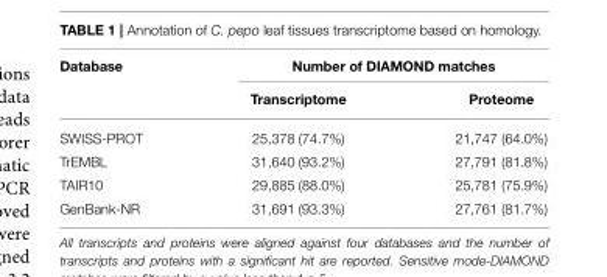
<table><thead><tr><td rowspan="2">Database</td><td colspan="2">Number of DIAMOND matches</td></tr><tr><td>Transcriptome</td><td>Proteome</td></tr></thead><tbody><tr><td>SWISS-PROT</td><td>25,378 (74.7%)</td><td>21,747 (64.0%)</td></tr><tr><td>TrEMBL</td><td>31,640 (93.2%)</td><td>27,791 (81.8%)</td></tr><tr><td>TAIR10</td><td>29,885 (88.0%)</td><td>25,781 (75.9%)</td></tr><tr><td>GenBank-NR</td><td>31,691 (93.3%)</td><td>27,761 (81.7%)</td></tr></tbody></table>